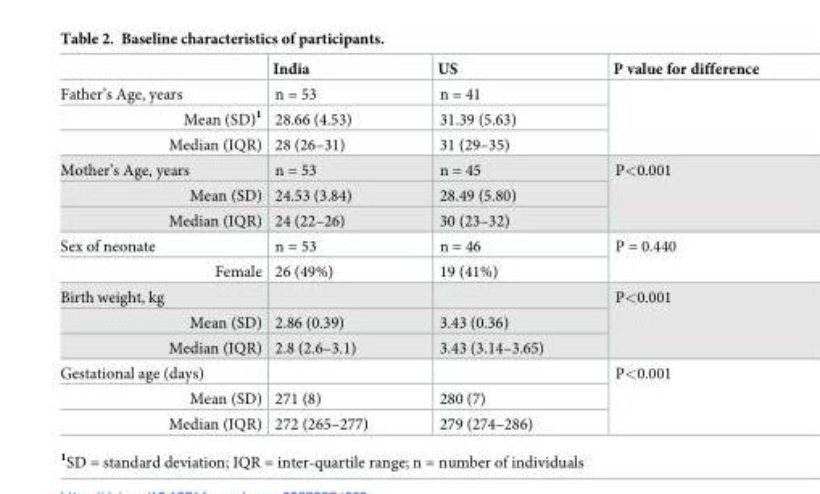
<table><thead><tr><td></td><td>India</td><td>US</td><td>P value for difference</td></tr></thead><tbody><tr><td>Father’s Age, years</td><td>n = 53</td><td>n = 41</td><td rowspan="3"></td></tr><tr><td>Mean (SD)<sup>1</sup></td><td>28.66 (4.53)</td><td>31.39 (5.63)</td></tr><tr><td>Median (IQR)</td><td>28 (26–31)</td><td>31 (29–35)</td></tr><tr><td>Mother’s Age, years</td><td>n = 53</td><td>n = 45</td><td rowspan="3">P&lt;0.001</td></tr><tr><td>Mean (SD)</td><td>24.53 (3.84)</td><td>28.49 (5.80)</td></tr><tr><td>Median (IQR)</td><td>24 (22–26)</td><td>30 (23–32)</td></tr><tr><td>Sex of neonate</td><td>n = 53</td><td>n = 46</td><td rowspan="2">P = 0.440</td></tr><tr><td>Female</td><td>26 (49%)</td><td>19 (41%)</td></tr><tr><td colspan="3">Birth weight, kg</td><td rowspan="3">P&lt;0.001</td></tr><tr><td>Mean (SD)</td><td>2.86 (0.39)</td><td>3.43 (0.36)</td></tr><tr><td>Median (IQR)</td><td>2.8 (2.6–3.1)</td><td>3.43 (3.14–3.65)</td></tr><tr><td colspan="3">Gestational age (days)</td><td rowspan="3">P&lt;0.001</td></tr><tr><td>Mean (SD)</td><td>271 (8)</td><td>280 (7)</td></tr><tr><td>Median (IQR)</td><td>272 (265–277)</td><td>279 (274–286)</td></tr></tbody></table>